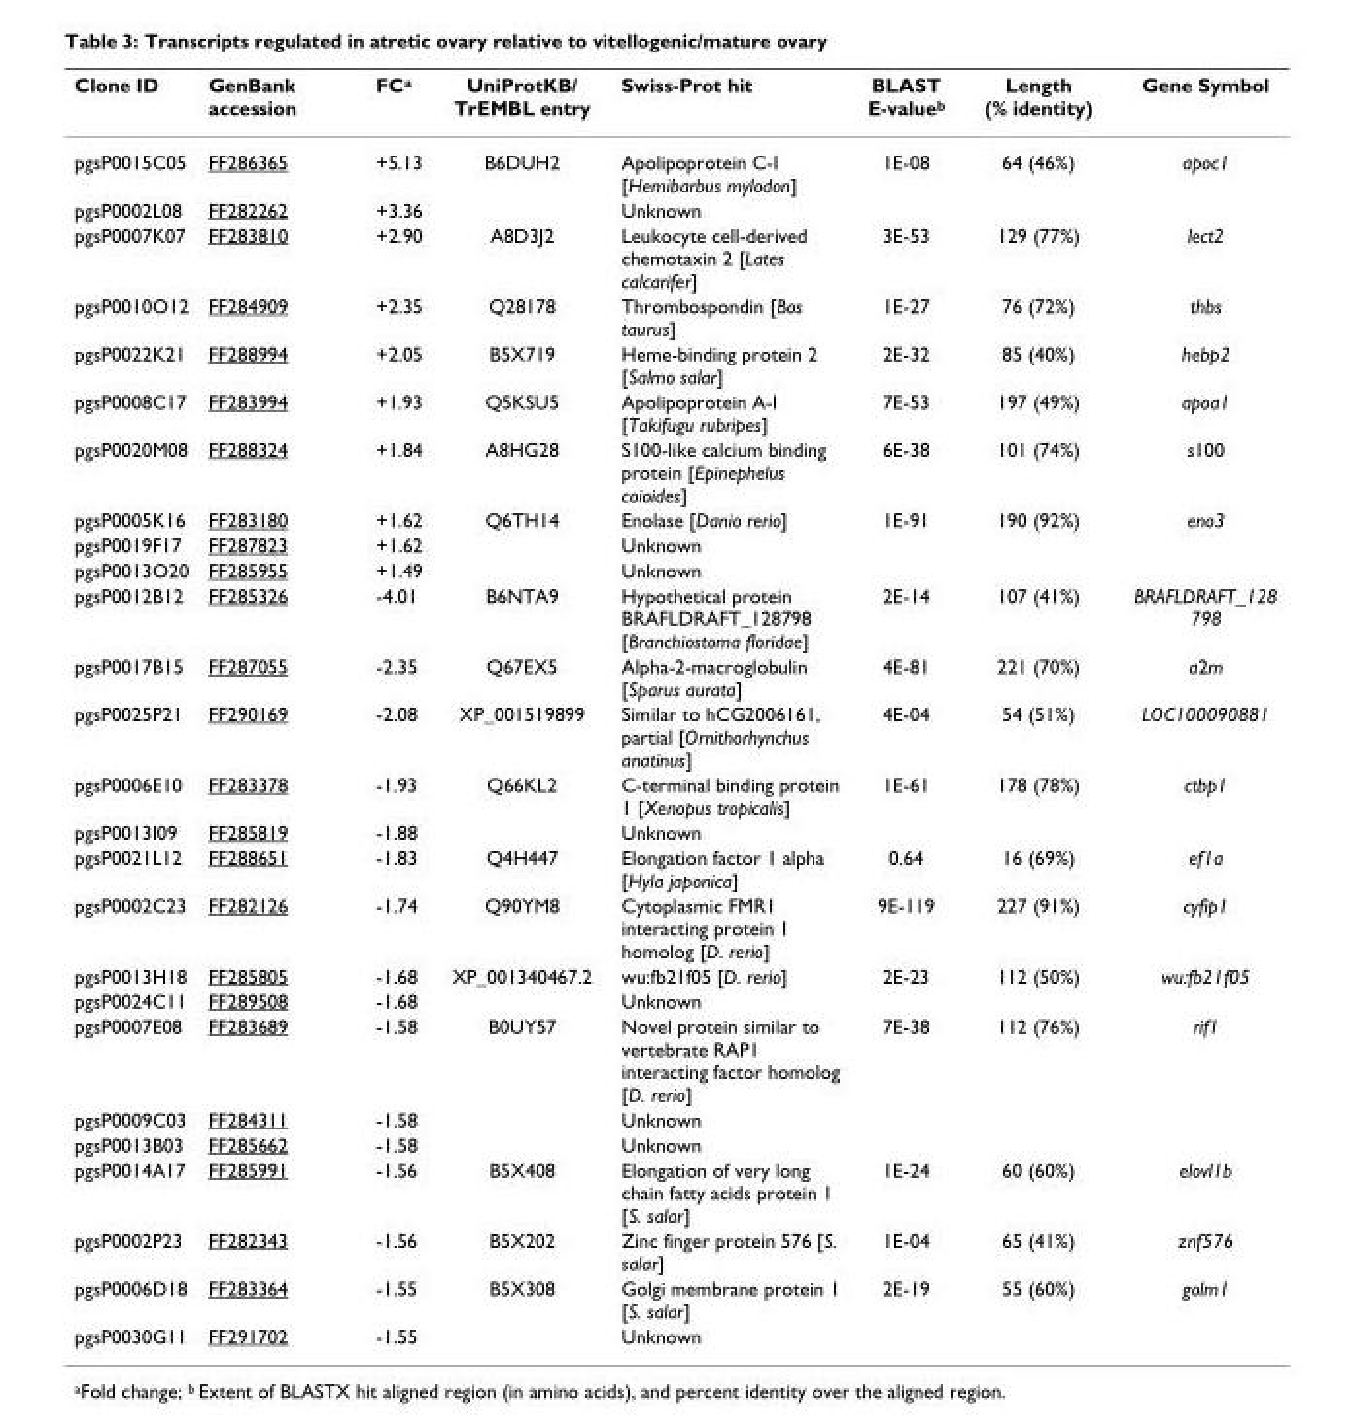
<table><thead><tr><td>Clone ID</td><td>GenBank accession</td><td>FC<sup>a</sup></td><td>UniProtKB/ TrEMBL entry</td><td>Swiss-Prot hit</td><td>BLAST E-value<sup>b</sup></td><td>Length (% identity)</td><td>Gene Symbol</td></tr></thead><tbody><tr><td>pgsP0015C05</td><td>FF286365</td><td>+5.13</td><td>B6DUH2</td><td>Apolipoprotein C-I [Hemibarbus mylodon]</td><td>1E-08</td><td>64 (46%)</td><td>apoc1</td></tr><tr><td>pgsP0002L08</td><td>FF282262</td><td>+3.36</td><td></td><td>Unknown</td><td></td><td></td><td></td></tr><tr><td>pgsP0007K07</td><td>FF283810</td><td>+2.90</td><td>A8D3J2</td><td>Leukocyte cell-derived chemotaxin 2 [Lates calcarifer]</td><td>3E-53</td><td>129 (77%)</td><td>lect2</td></tr><tr><td>pgsP0010O12</td><td>FF284909</td><td>+2.35</td><td>Q28178</td><td>Thrombospondin [Bos taurus]</td><td>1E-27</td><td>76 (72%)</td><td>thbs</td></tr><tr><td>pgsP0022K21</td><td>FF288994</td><td>+2.05</td><td>B5X719</td><td>Heme-binding protein 2 [Salmo salar]</td><td>2E-32</td><td>85 (40%)</td><td>hebp2</td></tr><tr><td>pgsP0008C17</td><td>FF283994</td><td>+1.93</td><td>Q5KSU5</td><td>Apolipoprotein A-I [Takifugu rubripes]</td><td>7E-53</td><td>197 (49%)</td><td>apoa1</td></tr><tr><td>pgsP0020M08</td><td>FF288324</td><td>+1.84</td><td>A8HG28</td><td>S100-like calcium binding protein [Epinephelus coioides]</td><td>6E-38</td><td>101 (74%)</td><td>s100</td></tr><tr><td>pgsP0005K16</td><td>FF283180</td><td>+1.62</td><td>Q6TH14</td><td>Enolase [Danio rerio]</td><td>1E-91</td><td>190 (92%)</td><td>eno3</td></tr><tr><td>pgsP0019F17</td><td>FF287823</td><td>+1.62</td><td></td><td>Unknown</td><td></td><td></td><td></td></tr><tr><td>pgsP0013O20</td><td>FF285955</td><td>+1.49</td><td></td><td>Unknown</td><td></td><td></td><td></td></tr><tr><td>pgsP0012B12</td><td>FF285326</td><td>-4.01</td><td>B6NTA9</td><td>Hypothetical protein BRAFLDRAFT_128798 [Branchiostoma floridae]</td><td>2E-14</td><td>107 (41%)</td><td>BRAFLDRAFT_128 798</td></tr><tr><td>pgsP0017B15</td><td>FF287055</td><td>-2.35</td><td>Q67EX5</td><td>Alpha-2-macroglobulin [Sparus aurata]</td><td>4E-81</td><td>221 (70%)</td><td>a2m</td></tr><tr><td>pgsP0025P21</td><td>FF290169</td><td>-2.08</td><td>XP_001519899</td><td>Similar to hCG2006161, partial [Ornithorhynchus anatinus]</td><td>4E-04</td><td>54 (51%)</td><td>LOC100090881</td></tr><tr><td>pgsP0006E10</td><td>FF283378</td><td>-1.93</td><td>Q66KL2</td><td>C-terminal binding protein 1 [Xenopus tropicalis]</td><td>1E-61</td><td>178 (78%)</td><td>ctbp1</td></tr><tr><td>pgsP0013I09</td><td>FF285819</td><td>-1.88</td><td></td><td>Unknown</td><td></td><td></td><td></td></tr><tr><td>pgsP0021L12</td><td>FF288651</td><td>-1.83</td><td>Q4H447</td><td>Elongation factor 1 alpha [Hyla japonica]</td><td>0.64</td><td>16 (69%)</td><td>ef1a</td></tr><tr><td>pgsP0002C23</td><td>FF282126</td><td>-1.74</td><td>Q90YM8</td><td>Cytoplasmic FMR1 interacting protein 1 homolog [D. rerio]</td><td>9E-119</td><td>227 (91%)</td><td>cyfip1</td></tr><tr><td>pgsP0013H18</td><td>FF285805</td><td>-1.68</td><td>XP_001340467.2</td><td>wu:fb21f05 [D. rerio]</td><td>2E-23</td><td>112 (50%)</td><td>wu:fb21f05</td></tr><tr><td>pgsP0024C11</td><td>FF289508</td><td>-1.68</td><td></td><td>Unknown</td><td></td><td></td><td></td></tr><tr><td>pgsP0007E08</td><td>FF283689</td><td>-1.58</td><td>B0UY57</td><td>Novel protein similar to vertebrate RAP1 interacting factor homolog [D. rerio]</td><td>7E-38</td><td>112 (76%)</td><td>rif1</td></tr><tr><td>pgsP0009C03</td><td>FF284311</td><td>-1.58</td><td></td><td>Unknown</td><td></td><td></td><td></td></tr><tr><td>pgsP0013B03</td><td>FF285662</td><td>-1.58</td><td></td><td>Unknown</td><td></td><td></td><td></td></tr><tr><td>pgsP0014A17</td><td>FF285991</td><td>-1.56</td><td>B5X408</td><td>Elongation of very long chain fatty acids protein 1 [S. salar]</td><td>1E-24</td><td>60 (60%)</td><td>elovl1b</td></tr><tr><td>pgsP0002P23</td><td>FF282343</td><td>-1.56</td><td>B5X202</td><td>Zinc finger protein 576 [S. salar]</td><td>1E-04</td><td>65 (41%)</td><td>znf576</td></tr><tr><td>pgsP0006D18</td><td>FF283364</td><td>-1.55</td><td>B5X308</td><td>Golgi membrane protein 1 [S. salar]</td><td>2E-19</td><td>55 (60%)</td><td>golm1</td></tr><tr><td>pgsP0030G11</td><td>FF291702</td><td>-1.55</td><td></td><td>Unknown</td><td></td><td></td><td></td></tr></tbody></table>